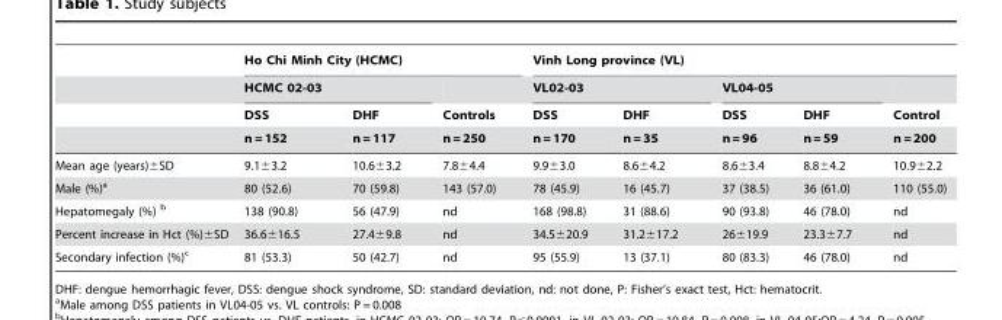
<table><thead><tr><td rowspan="4"></td><td colspan="3">Ho Chi Minh City (HCMC)</td><td colspan="5">Vinh Long province (VL)</td></tr><tr><td colspan="2">HCMC 02-03</td><td rowspan="3">Controls n = 250</td><td colspan="2">VL02-03</td><td colspan="2">VL04-05</td><td rowspan="3">Control n = 200</td></tr><tr><td rowspan="2">DSS n = 152</td><td rowspan="2">DHF n = 117</td><td rowspan="2">DSS n = 170</td><td rowspan="2">DHF n = 35</td><td rowspan="2">DSS n = 96</td><td rowspan="2">DHF n = 59</td></tr><tr></tr></thead><tbody><tr><td>Mean age (years)±SD</td><td>9.1±3.2</td><td>10.6±3.2</td><td>7.8±4.4</td><td>9.9±3.0</td><td>8.6±4.2</td><td>8.6±3.4</td><td>8.8±4.2</td><td>10.9±2.2</td></tr><tr><td>Male (%)<sup>a</sup></td><td>80 (52.6)</td><td>70 (59.8)</td><td>143 (57.0)</td><td>78 (45.9)</td><td>16 (45.7)</td><td>37 (38.5)</td><td>36 (61.0)</td><td>110 (55.0)</td></tr><tr><td>Hepatomegaly (%) b</td><td>138 (90.8)</td><td>56 (47.9)</td><td>nd</td><td>168 (98.8)</td><td>31 (88.6)</td><td>90 (93.8)</td><td>46 (78.0)</td><td>nd</td></tr><tr><td>Percent increase in Hct (%)±SD</td><td>36.6±16.5</td><td>27.4±9.8</td><td>nd</td><td>34.5±20.9</td><td>31.2±17.2</td><td>26±19.9</td><td>23.3±7.7</td><td>nd</td></tr><tr><td>Secondary infection (%)<sup>c</sup></td><td>81 (53.3)</td><td>50 (42.7)</td><td>nd</td><td>95 (55.9)</td><td>13 (37.1)</td><td>80 (83.3)</td><td>46 (78.0)</td><td>nd</td></tr></tbody></table>